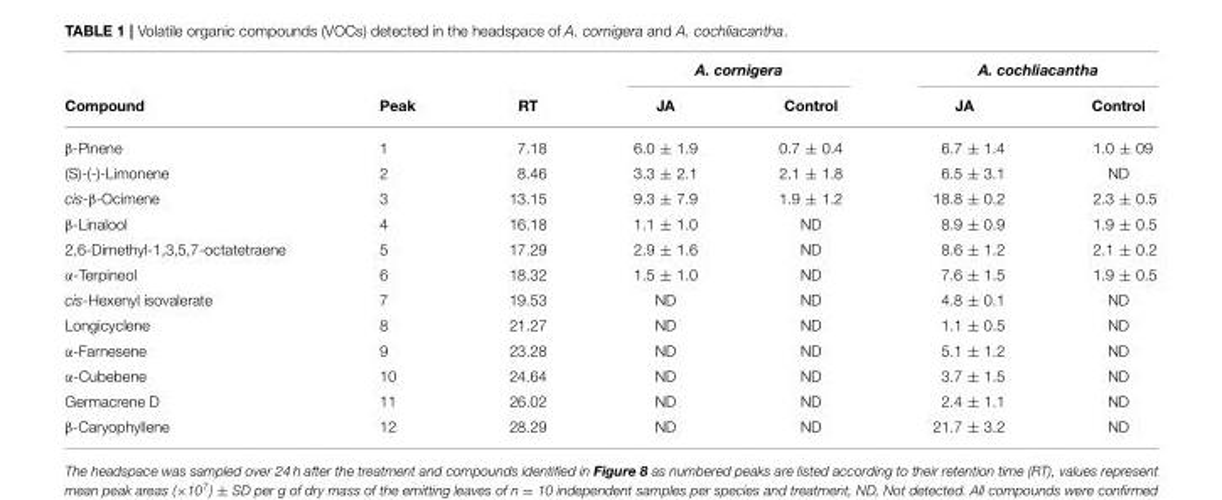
<table><thead><tr><td rowspan="2">Compound</td><td rowspan="2">Peak</td><td rowspan="2">RT</td><td colspan="2">A. cornigera</td><td colspan="2">A. cochliacantha</td></tr><tr><td>JA</td><td>Control</td><td>JA</td><td>Control</td></tr></thead><tbody><tr><td>β-Pinene</td><td>1</td><td>7.18</td><td>6.0 ± 1.9</td><td>0.7 ± 0.4</td><td>6.7 ± 1.4</td><td>1.0 ± 09</td></tr><tr><td>(S)-(-)-Limonene</td><td>2</td><td>8.46</td><td>3.3 ± 2.1</td><td>2.1 ± 1.8</td><td>6.5 ± 3.1</td><td>ND</td></tr><tr><td>cis-β-Ocimene</td><td>3</td><td>13.15</td><td>9.3 ± 7.9</td><td>1.9 ± 1.2</td><td>18.8 ± 0.2</td><td>2.3 ± 0.5</td></tr><tr><td>β-Linalool</td><td>4</td><td>16.18</td><td>1.1 ± 1.0</td><td>ND</td><td>8.9 ± 0.9</td><td>1.9 ± 0.5</td></tr><tr><td>2,6-Dimethyl-1,3,5,7-octatetraene</td><td>5</td><td>17.29</td><td>2.9 ± 1.6</td><td>ND</td><td>8.6 ± 1.2</td><td>2.1 ± 0.2</td></tr><tr><td>α-Terpineol</td><td>6</td><td>18.32</td><td>1.5 ± 1.0</td><td>ND</td><td>7.6 ± 1.5</td><td>1.9 ± 0.5</td></tr><tr><td>cis-Hexenyl isovalerate</td><td>7</td><td>19.53</td><td>ND</td><td>ND</td><td>4.8 ± 0.1</td><td>ND</td></tr><tr><td>Longicyclene</td><td>8</td><td>21.27</td><td>ND</td><td>ND</td><td>1.1 ± 0.5</td><td>ND</td></tr><tr><td>α-Farnesene</td><td>9</td><td>23.28</td><td>ND</td><td>ND</td><td>5.1 ± 1.2</td><td>ND</td></tr><tr><td>α-Cubebene</td><td>10</td><td>24.64</td><td>ND</td><td>ND</td><td>3.7 ± 1.5</td><td>ND</td></tr><tr><td>Germacrene D</td><td>11</td><td>26.02</td><td>ND</td><td>ND</td><td>2.4 ± 1.1</td><td>ND</td></tr><tr><td>β-Caryophyllene</td><td>12</td><td>28.29</td><td>ND</td><td>ND</td><td>21.7 ± 3.2</td><td>ND</td></tr></tbody></table>